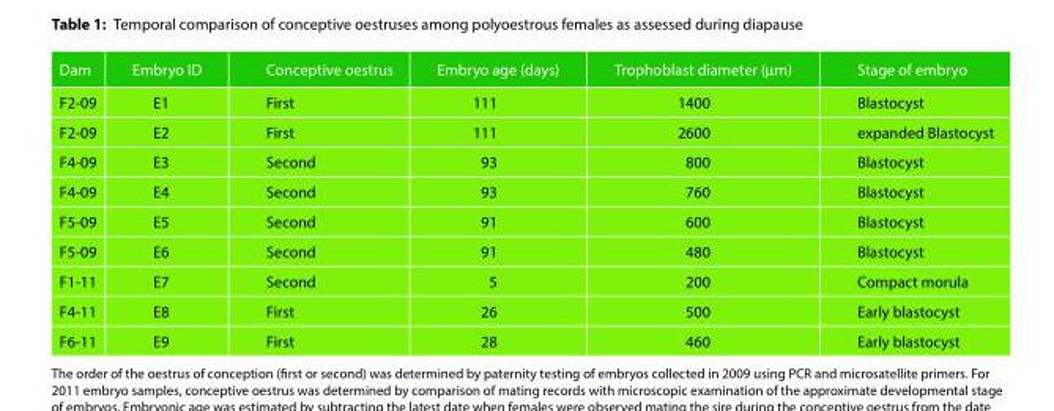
<table><thead><tr><td>Dam</td><td>Embryo ID</td><td>Conceptive oestrus</td><td>Embryo age (days)</td><td>Trophoblast diameter (μm)</td><td>Stage of embryo</td></tr></thead><tbody><tr><td>F2-09</td><td>E1</td><td>First</td><td>111</td><td>1400</td><td>Blastocyst</td></tr><tr><td>F2-09</td><td>E2</td><td>First</td><td>111</td><td>2600</td><td>expanded Blastocyst</td></tr><tr><td>F4-09</td><td>E3</td><td>Second</td><td>93</td><td>800</td><td>Blastocyst</td></tr><tr><td>F4-09</td><td>E4</td><td>Second</td><td>93</td><td>760</td><td>Blastocyst</td></tr><tr><td>F5-09</td><td>E5</td><td>Second</td><td>91</td><td>600</td><td>Blastocyst</td></tr><tr><td>F5-09</td><td>E6</td><td>Second</td><td>91</td><td>480</td><td>Blastocyst</td></tr><tr><td>F1-11</td><td>E7</td><td>Second</td><td>5</td><td>200</td><td>Compact morula</td></tr><tr><td>F4-11</td><td>E8</td><td>First</td><td>26</td><td>500</td><td>Early blastocyst</td></tr><tr><td>F6-11</td><td>E9</td><td>First</td><td>28</td><td>460</td><td>Early blastocyst</td></tr></tbody></table>